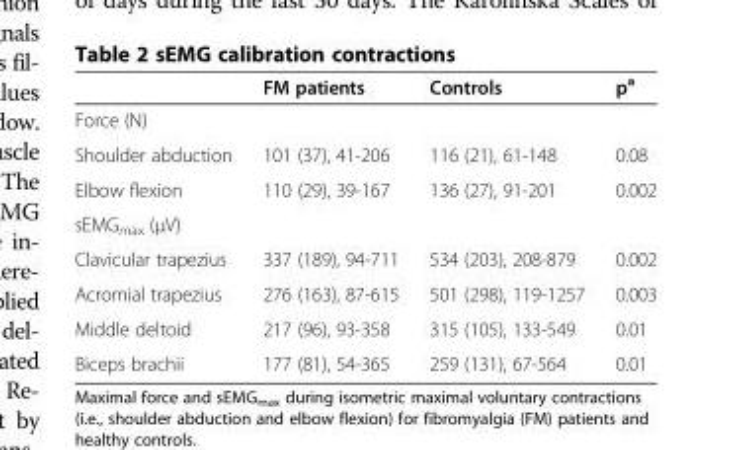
<table><thead><tr><td></td><td>FM patients</td><td>Controls</td><td>p<sup>a</sup></td></tr></thead><tbody><tr><td colspan="4">Force (N)</td></tr><tr><td>Shoulder abduction</td><td>101 (37), 41-206</td><td>116 (21), 61-148</td><td>0.08</td></tr><tr><td>Elbow flexion</td><td>110 (29), 39-167</td><td>136 (27), 91-201</td><td>0.002</td></tr><tr><td colspan="4">sEMG<sub>max</sub> (μV)</td></tr><tr><td>Clavicular trapezius</td><td>337 (189), 94-711</td><td>534 (203), 208-879</td><td>0.002</td></tr><tr><td>Acromial trapezius</td><td>276 (163), 87-615</td><td>501 (298), 119-1257</td><td>0.003</td></tr><tr><td>Middle deltoid</td><td>217 (96), 93-358</td><td>315 (105), 133-549</td><td>0.01</td></tr><tr><td>Biceps brachii</td><td>177 (81), 54-365</td><td>259 (131), 67-564</td><td>0.01</td></tr></tbody></table>